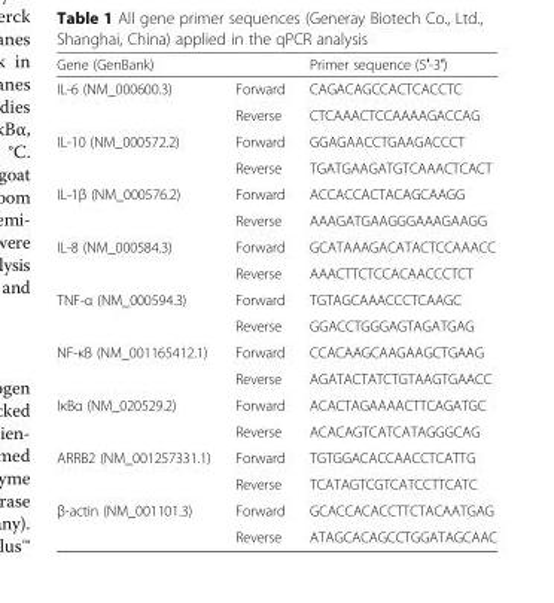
<table><thead><tr><td>Gene (GenBank)</td><td></td><td>Primer sequence (5′-3′)</td></tr></thead><tbody><tr><td rowspan="2">IL-6 (NM_000600.3)</td><td>Forward</td><td>CAGACAGCCACTCACCTC</td></tr><tr><td>Reverse</td><td>CTCAAACTCCAAAAGACCAG</td></tr><tr><td rowspan="2">IL-10 (NM_000572.2)</td><td>Forward</td><td>GGAGAACCTGAAGACCCT</td></tr><tr><td>Reverse</td><td>TGATGAAGATGTCAAACTCACT</td></tr><tr><td rowspan="2">IL-1β (NM_000576.2)</td><td>Forward</td><td>ACCACCACTACAGCAAGG</td></tr><tr><td>Reverse</td><td>AAAGATGAAGGGAAAGAAGG</td></tr><tr><td rowspan="2">IL-8 (NM_000584.3)</td><td>Forward</td><td>GCATAAAGACATACTCCAAACC</td></tr><tr><td>Reverse</td><td>AAACTTCTCCACAACCCTCT</td></tr><tr><td rowspan="2">TNF-α (NM_000594.3)</td><td>Forward</td><td>TGTAGCAAACCCTCAAGC</td></tr><tr><td>Reverse</td><td>GGACCTGGGAGTAGATGAG</td></tr><tr><td rowspan="2">NF-κB (NM_001165412.1)</td><td>Forward</td><td>CCACAAGCAAGAAGCTGAAG</td></tr><tr><td>Reverse</td><td>AGATACTATCTGTAAGTGAACC</td></tr><tr><td rowspan="2">IκBα (NM_020529.2)</td><td>Forward</td><td>ACACTAGAAAACTTCAGATGC</td></tr><tr><td>Reverse</td><td>ACACAGTCATCATAGGGCAG</td></tr><tr><td rowspan="2">ARRB2 (NM_001257331.1)</td><td>Forward</td><td>TGTGGACACCAACCTCATTG</td></tr><tr><td>Reverse</td><td>TCATAGTCGTCATCCTTCATC</td></tr><tr><td rowspan="2">β-actin (NM_001101.3)</td><td>Forward</td><td>GCACCACACCTTCTACAATGAG</td></tr><tr><td>Reverse</td><td>ATAGCACAGCCTGGATAGCAAC</td></tr></tbody></table>